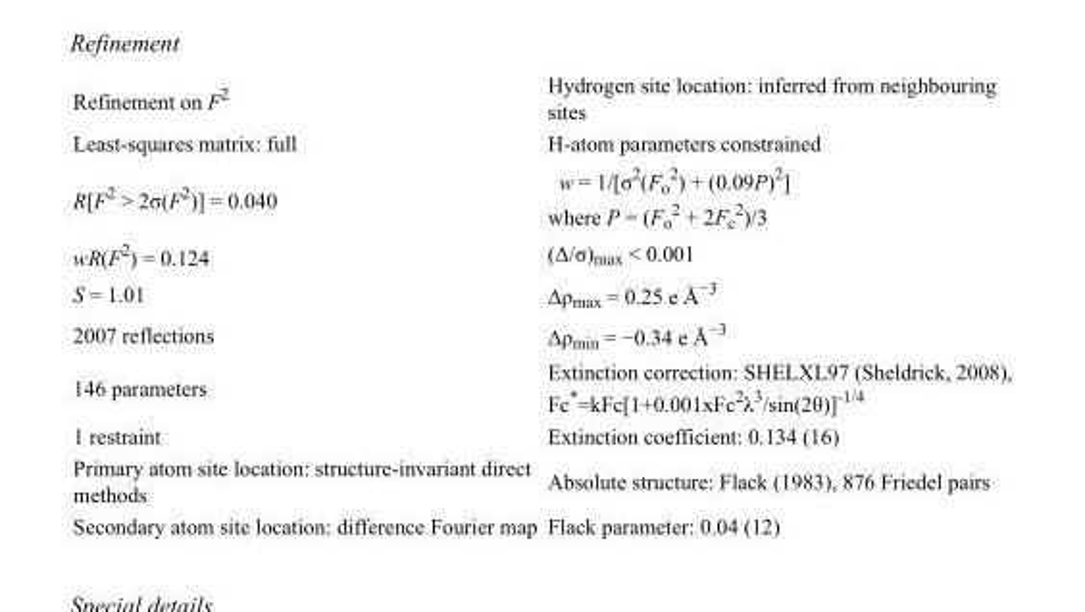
<table><tbody><tr><td>Refinement on F<sup>2</sup></td><td>Hydrogen site location: inferred from neighbouring sites</td></tr><tr><td>Least-squares matrix: full</td><td>H-atom parameters constrained</td></tr><tr><td>R[F<sup>2</sup> &gt; 2σ(F<sup>2</sup>)] = 0.040</td><td>w = 1/[σ<sup>2</sup>(F<sub>o</sub> <sup>2</sup>) + (0.09P)<sup>2</sup>] where P = (F<sub>o</sub> <sup>2</sup> + 2F<sub>c</sub> <sup>2</sup>)/3</td></tr><tr><td>wR(F<sup>2</sup>) = 0.124</td><td>(Δ/σ)<sub>max</sub> &lt; 0.001</td></tr><tr><td>S = 1.01</td><td>Δρ<sub>max</sub> = 0.25 e Å<sup>−3</sup></td></tr><tr><td>2007 reflections</td><td>Δρ<sub>min</sub> = −0.34 e Å<sup>−3</sup></td></tr><tr><td>146 parameters</td><td>Extinction correction: SHELXL97 (Sheldrick, 2008), Fc*=kFc[1+0.001xFc<sup>2</sup>λ<sup>3</sup>/sin(2θ)]<sup>-1/4</sup></td></tr><tr><td>1 restraint</td><td>Extinction coefficient: 0.134 (16)</td></tr><tr><td>Primary atom site location: structure-invariant direct methods</td><td>Absolute structure: Flack (1983), 876 Friedel pairs</td></tr><tr><td>Secondary atom site location: difference Fourier map</td><td>Flack parameter: 0.04 (12)</td></tr></tbody></table>